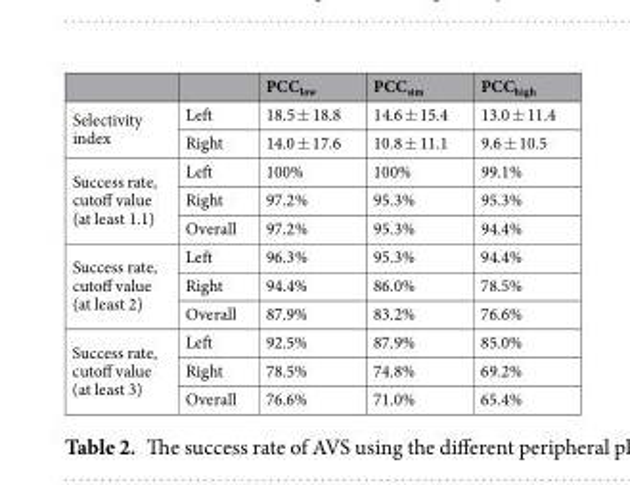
<table><thead><tr><td></td><td></td><td>PCC<sub>low</sub></td><td>PCC<sub>sim</sub></td><td>PCC<sub>high</sub></td></tr></thead><tbody><tr><td rowspan="2">Selectivity index</td><td>Left</td><td>18.5 ± 18.8</td><td>14.6 ± 15.4</td><td>13.0 ± 11.4</td></tr><tr><td>Right</td><td>14.0 ± 17.6</td><td>10.8 ± 11.1</td><td>9.6 ± 10.5</td></tr><tr><td rowspan="3">Success rate, cutoff value (at least 1.1)</td><td>Left</td><td>100%</td><td>100%</td><td>99.1%</td></tr><tr><td>Right</td><td>97.2%</td><td>95.3%</td><td>95.3%</td></tr><tr><td>Overall</td><td>97.2%</td><td>95.3%</td><td>94.4%</td></tr><tr><td rowspan="3">Success rate, cutoff value (at least 2)</td><td>Left</td><td>96.3%</td><td>95.3%</td><td>94.4%</td></tr><tr><td>Right</td><td>94.4%</td><td>86.0%</td><td>78.5%</td></tr><tr><td>Overall</td><td>87.9%</td><td>83.2%</td><td>76.6%</td></tr><tr><td rowspan="3">Success rate, cutoff value (at least 3)</td><td>Left</td><td>92.5%</td><td>87.9%</td><td>85.0%</td></tr><tr><td>Right</td><td>78.5%</td><td>74.8%</td><td>69.2%</td></tr><tr><td>Overall</td><td>76.6%</td><td>71.0%</td><td>65.4%</td></tr></tbody></table>